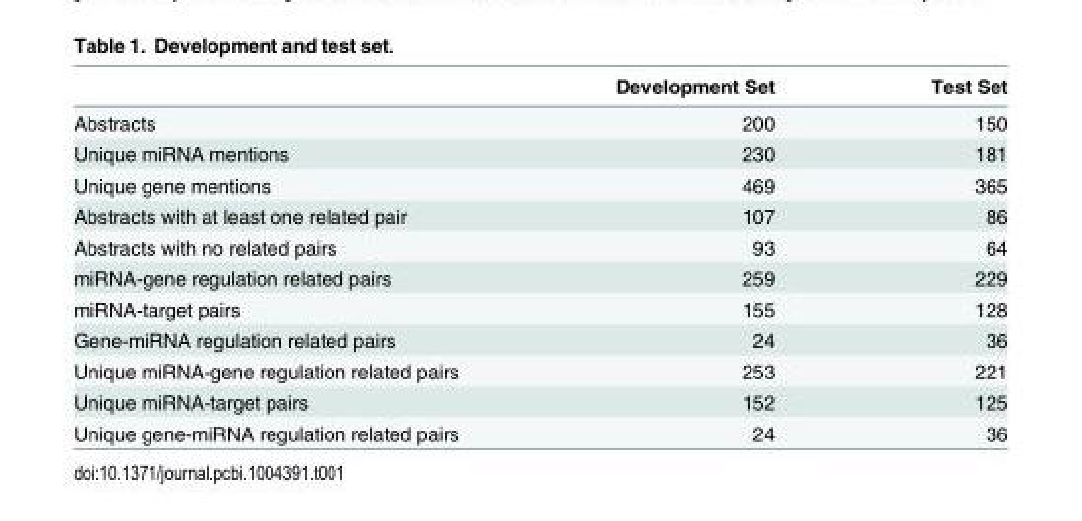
<table><thead><tr><td></td><td>Development Set</td><td>Test Set</td></tr></thead><tbody><tr><td>Abstracts</td><td>200</td><td>150</td></tr><tr><td>Unique miRNA mentions</td><td>230</td><td>181</td></tr><tr><td>Unique gene mentions</td><td>469</td><td>365</td></tr><tr><td>Abstracts with at least one related pair</td><td>107</td><td>86</td></tr><tr><td>Abstracts with no related pairs</td><td>93</td><td>64</td></tr><tr><td>miRNA-gene regulation related pairs</td><td>259</td><td>229</td></tr><tr><td>miRNA-target pairs</td><td>155</td><td>128</td></tr><tr><td>Gene-miRNA regulation related pairs</td><td>24</td><td>36</td></tr><tr><td>Unique miRNA-gene regulation related pairs</td><td>253</td><td>221</td></tr><tr><td>Unique miRNA-target pairs</td><td>152</td><td>125</td></tr><tr><td>Unique gene-miRNA regulation related pairs</td><td>24</td><td>36</td></tr></tbody></table>